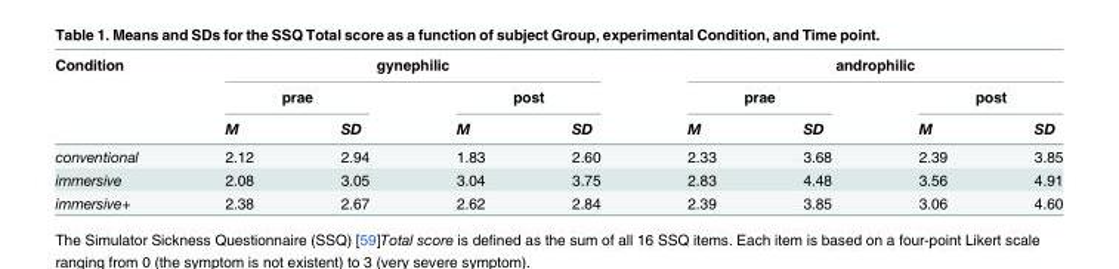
<table><thead><tr><td rowspan="3">Condition</td><td colspan="4">gynephilic</td><td colspan="4">androphilic</td></tr><tr><td colspan="2">prae</td><td colspan="2">post</td><td colspan="2">prae</td><td colspan="2">post</td></tr><tr><td>M</td><td>SD</td><td>M</td><td>SD</td><td>M</td><td>SD</td><td>M</td><td>SD</td></tr></thead><tbody><tr><td>conventional</td><td>2.12</td><td>2.94</td><td>1.83</td><td>2.60</td><td>2.33</td><td>3.68</td><td>2.39</td><td>3.85</td></tr><tr><td>immersive</td><td>2.08</td><td>3.05</td><td>3.04</td><td>3.75</td><td>2.83</td><td>4.48</td><td>3.56</td><td>4.91</td></tr><tr><td>immersive+</td><td>2.38</td><td>2.67</td><td>2.62</td><td>2.84</td><td>2.39</td><td>3.85</td><td>3.06</td><td>4.60</td></tr></tbody></table>